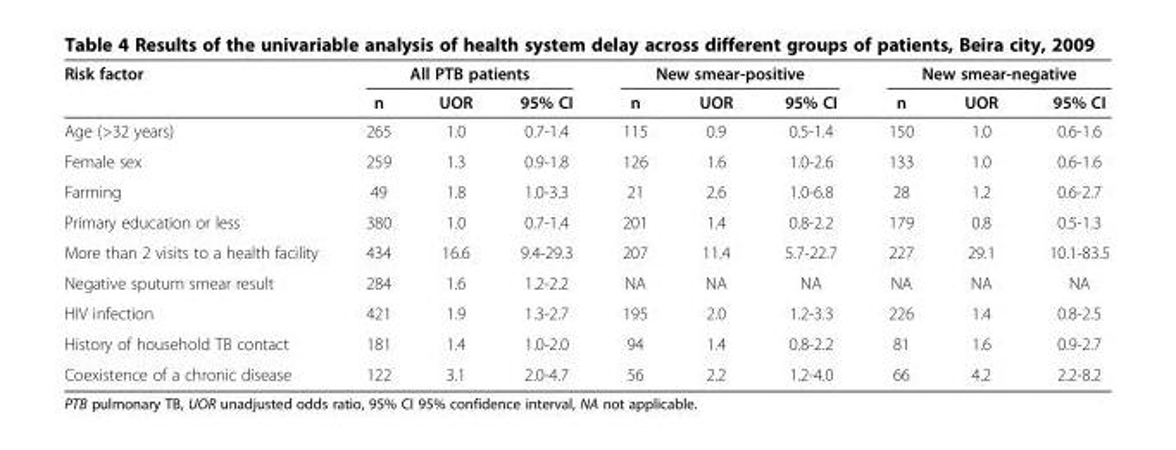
<table><thead><tr><td rowspan="2">Risk factor</td><td colspan="3">All PTB patients</td><td colspan="3">New smear-positive</td><td colspan="3">New smear-negative</td></tr><tr><td>n</td><td>UOR</td><td>95% CI</td><td>n</td><td>UOR</td><td>95% CI</td><td>n</td><td>UOR</td><td>95% CI</td></tr></thead><tbody><tr><td>Age (&gt;32 years)</td><td>265</td><td>1.0</td><td>0.7-1.4</td><td>115</td><td>0.9</td><td>0.5-1.4</td><td>150</td><td>1.0</td><td>0.6-1.6</td></tr><tr><td>Female sex</td><td>259</td><td>1.3</td><td>0.9-1.8</td><td>126</td><td>1.6</td><td>1.0-2.6</td><td>133</td><td>1.0</td><td>0.6-1.6</td></tr><tr><td>Farming</td><td>49</td><td>1.8</td><td>1.0-3.3</td><td>21</td><td>2.6</td><td>1.0-6.8</td><td>28</td><td>1.2</td><td>0.6-2.7</td></tr><tr><td>Primary education or less</td><td>380</td><td>1.0</td><td>0.7-1.4</td><td>201</td><td>1.4</td><td>0.8-2.2</td><td>179</td><td>0.8</td><td>0.5-1.3</td></tr><tr><td>More than 2 visits to a health facility</td><td>434</td><td>16.6</td><td>9.4-29.3</td><td>207</td><td>11.4</td><td>5.7-22.7</td><td>227</td><td>29.1</td><td>10.1-83.5</td></tr><tr><td>Negative sputum smear result</td><td>284</td><td>1.6</td><td>1.2-2.2</td><td>NA</td><td>NA</td><td>NA</td><td>NA</td><td>NA</td><td>NA</td></tr><tr><td>HIV infection</td><td>421</td><td>1.9</td><td>1.3-2.7</td><td>195</td><td>2.0</td><td>1.2-3.3</td><td>226</td><td>1.4</td><td>0.8-2.5</td></tr><tr><td>History of household TB contact</td><td>181</td><td>1.4</td><td>1.0-2.0</td><td>94</td><td>1.4</td><td>0.8-2.2</td><td>81</td><td>1.6</td><td>0.9-2.7</td></tr><tr><td>Coexistence of a chronic disease</td><td>122</td><td>3.1</td><td>2.0-4.7</td><td>56</td><td>2.2</td><td>1.2-4.0</td><td>66</td><td>4.2</td><td>2.2-8.2</td></tr></tbody></table>